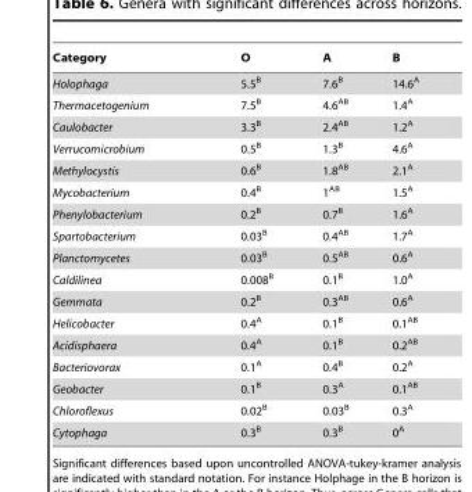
<table><thead><tr><td>Category</td><td>O</td><td>A</td><td>B</td></tr></thead><tbody><tr><td>Holophaga</td><td>5.5<sup>B</sup></td><td>7.6<sup>B</sup></td><td>14.6<sup>A</sup></td></tr><tr><td>Thermacetogenium</td><td>7.5<sup>B</sup></td><td>4.6<sup>AB</sup></td><td>1.4<sup>A</sup></td></tr><tr><td>Caulobacter</td><td>3.3<sup>B</sup></td><td>2.4<sup>AB</sup></td><td>1.2<sup>A</sup></td></tr><tr><td>Verrucomicrobium</td><td>0.5<sup>B</sup></td><td>1.3<sup>B</sup></td><td>4.6<sup>A</sup></td></tr><tr><td>Methylocystis</td><td>0.6<sup>B</sup></td><td>1.8<sup>AB</sup></td><td>2.1<sup>A</sup></td></tr><tr><td>Mycobacterium</td><td>0.4<sup>B</sup></td><td>1<sup>AB</sup></td><td>1.5<sup>A</sup></td></tr><tr><td>Phenylobacterium</td><td>0.2<sup>B</sup></td><td>0.7<sup>B</sup></td><td>1.6<sup>A</sup></td></tr><tr><td>Spartobacterium</td><td>0.03<sup>B</sup></td><td>0.4<sup>AB</sup></td><td>1.7<sup>A</sup></td></tr><tr><td>Planctomycetes</td><td>0.03<sup>B</sup></td><td>0.5<sup>AB</sup></td><td>0.6<sup>A</sup></td></tr><tr><td>Caldilinea</td><td>0.008<sup>B</sup></td><td>0.1<sup>B</sup></td><td>1.0<sup>A</sup></td></tr><tr><td>Gemmata</td><td>0.2<sup>B</sup></td><td>0.3<sup>AB</sup></td><td>0.6<sup>A</sup></td></tr><tr><td>Helicobacter</td><td>0.4<sup>A</sup></td><td>0.1<sup>B</sup></td><td>0.1<sup>AB</sup></td></tr><tr><td>Acidisphaera</td><td>0.4<sup>A</sup></td><td>0.1<sup>B</sup></td><td>0.2<sup>AB</sup></td></tr><tr><td>Bacteriovorax</td><td>0.1<sup>A</sup></td><td>0.4<sup>B</sup></td><td>0.2<sup>A</sup></td></tr><tr><td>Geobacter</td><td>0.1<sup>B</sup></td><td>0.3<sup>A</sup></td><td>0.1<sup>AB</sup></td></tr><tr><td>Chloroflexus</td><td>0.02<sup>B</sup></td><td>0.03<sup>B</sup></td><td>0.3<sup>A</sup></td></tr><tr><td>Cytophaga</td><td>0.3<sup>B</sup></td><td>0.3<sup>B</sup></td><td>0<sup>A</sup></td></tr></tbody></table>